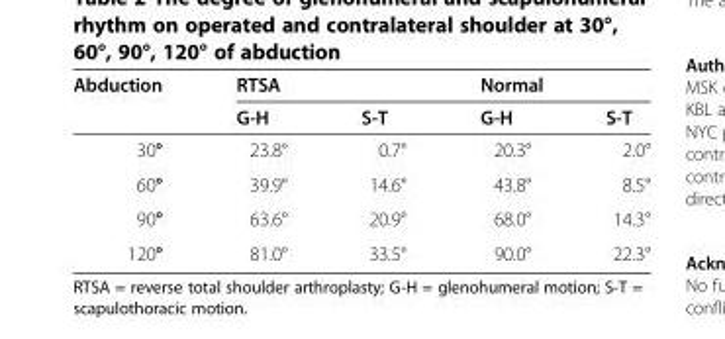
<table><thead><tr><td rowspan="2">Abduction</td><td colspan="2">RTSA</td><td colspan="2">Normal</td></tr><tr><td>G-H</td><td>S-T</td><td>G-H</td><td>S-T</td></tr></thead><tbody><tr><td>30°</td><td>23.8°</td><td>0.7°</td><td>20.3°</td><td>2.0°</td></tr><tr><td>60°</td><td>39.9°</td><td>14.6°</td><td>43.8°</td><td>8.5°</td></tr><tr><td>90°</td><td>63.6°</td><td>20.9°</td><td>68.0°</td><td>14.3°</td></tr><tr><td>120°</td><td>81.0°</td><td>33.5°</td><td>90.0°</td><td>22.3°</td></tr></tbody></table>